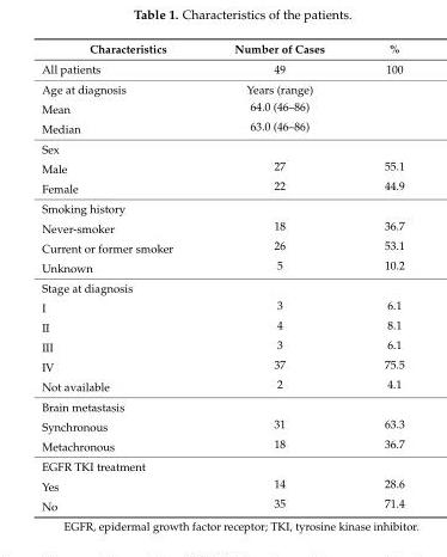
<table><thead><tr><td>Characteristics</td><td>Number of Cases</td><td>%</td></tr></thead><tbody><tr><td>All patients</td><td>49</td><td>100</td></tr><tr><td>Age at diagnosis</td><td>Years (range)</td><td></td></tr><tr><td>Mean</td><td>64.0 (46–86)</td><td></td></tr><tr><td>Median</td><td>63.0 (46–86)</td><td></td></tr><tr><td colspan="3">Sex</td></tr><tr><td>Male</td><td>27</td><td>55.1</td></tr><tr><td>Female</td><td>22</td><td>44.9</td></tr><tr><td colspan="3">Smoking history</td></tr><tr><td>Never-smoker</td><td>18</td><td>36.7</td></tr><tr><td>Current or former smoker</td><td>26</td><td>53.1</td></tr><tr><td>Unknown</td><td>5</td><td>10.2</td></tr><tr><td colspan="3">Stage at diagnosis</td></tr><tr><td>I</td><td>3</td><td>6.1</td></tr><tr><td>II</td><td>4</td><td>8.1</td></tr><tr><td>III</td><td>3</td><td>6.1</td></tr><tr><td>IV</td><td>37</td><td>75.5</td></tr><tr><td>Not available</td><td>2</td><td>4.1</td></tr><tr><td colspan="3">Brain metastasis</td></tr><tr><td>Synchronous</td><td>31</td><td>63.3</td></tr><tr><td>Metachronous</td><td>18</td><td>36.7</td></tr><tr><td colspan="3">EGFR TKI treatment</td></tr><tr><td>Yes</td><td>14</td><td>28.6</td></tr><tr><td>No</td><td>35</td><td>71.4</td></tr></tbody></table>